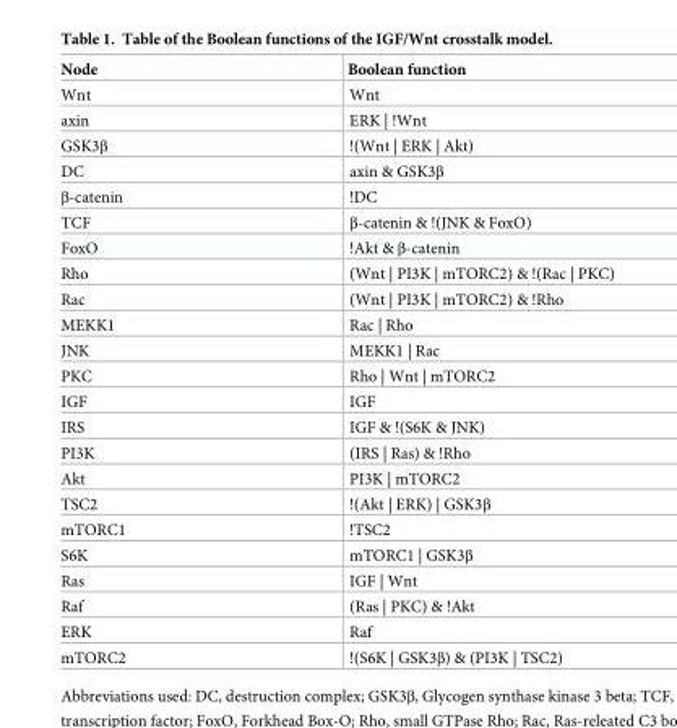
<table><thead><tr><td>Node</td><td>Boolean function</td></tr></thead><tbody><tr><td>Wnt</td><td>Wnt</td></tr><tr><td>axin</td><td>ERK | !Wnt</td></tr><tr><td>GSK3β</td><td>!(Wnt | ERK | Akt)</td></tr><tr><td>DC</td><td>axin &amp; GSK3β</td></tr><tr><td>β-catenin</td><td>!DC</td></tr><tr><td>TCF</td><td>β-catenin &amp; !(JNK &amp; FoxO)</td></tr><tr><td>FoxO</td><td>!Akt &amp; β-catenin</td></tr><tr><td>Rho</td><td>(Wnt | PI3K | mTORC2) &amp; !(Rac | PKC)</td></tr><tr><td>Rac</td><td>(Wnt | PI3K | mTORC2) &amp; !Rho</td></tr><tr><td>MEKK1</td><td>Rac | Rho</td></tr><tr><td>JNK</td><td>MEKK1 | Rac</td></tr><tr><td>PKC</td><td>Rho | Wnt | mTORC2</td></tr><tr><td>IGF</td><td>IGF</td></tr><tr><td>IRS</td><td>IGF &amp; !(S6K &amp; JNK)</td></tr><tr><td>PI3K</td><td>(IRS | Ras) &amp; !Rho</td></tr><tr><td>Akt</td><td>PI3K | mTORC2</td></tr><tr><td>TSC2</td><td>!(Akt | ERK) | GSK3β</td></tr><tr><td>mTORC1</td><td>!TSC2</td></tr><tr><td>S6K</td><td>mTORC1 | GSK3β</td></tr><tr><td>Ras</td><td>IGF | Wnt</td></tr><tr><td>Raf</td><td>(Ras | PKC) &amp; !Akt</td></tr><tr><td>ERK</td><td>Raf</td></tr><tr><td>mTORC2</td><td>!(S6K | GSK3β) &amp; (PI3K | TSC2)</td></tr></tbody></table>